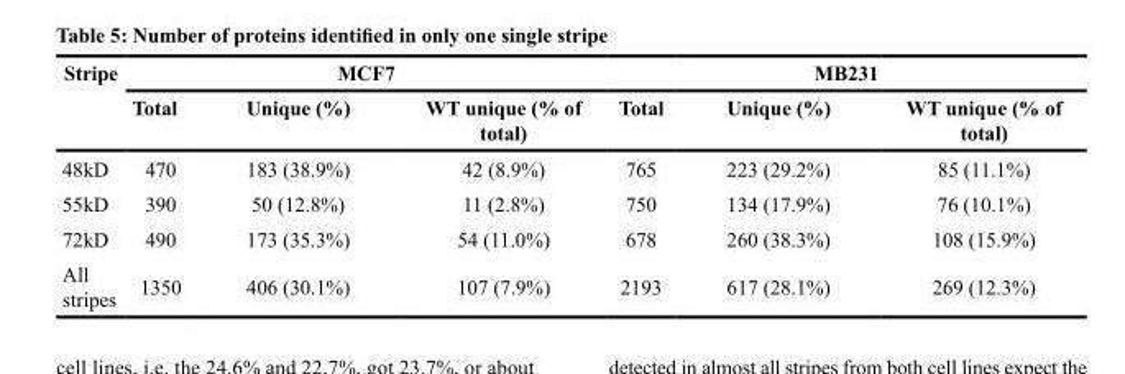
<table><thead><tr><td rowspan="2">Stripe</td><td colspan="3">MCF7</td><td colspan="3">MB231</td></tr><tr><td>Total</td><td>Unique (%)</td><td>WT unique (% of total)</td><td>Total</td><td>Unique (%)</td><td>WT unique (% of total)</td></tr></thead><tbody><tr><td>48kD</td><td>470</td><td>183 (38.9%)</td><td>42 (8.9%)</td><td>765</td><td>223 (29.2%)</td><td>85 (11.1%)</td></tr><tr><td>55kD</td><td>390</td><td>50 (12.8%)</td><td>11 (2.8%)</td><td>750</td><td>134 (17.9%)</td><td>76 (10.1%)</td></tr><tr><td>72kD</td><td>490</td><td>173 (35.3%)</td><td>54 (11.0%)</td><td>678</td><td>260 (38.3%)</td><td>108 (15.9%)</td></tr><tr><td>All stripes</td><td>1350</td><td>406 (30.1%)</td><td>107 (7.9%)</td><td>2193</td><td>617 (28.1%)</td><td>269 (12.3%)</td></tr></tbody></table>